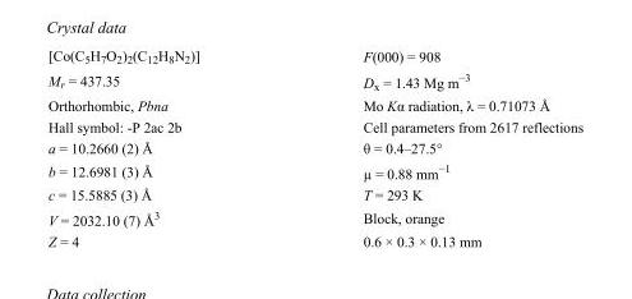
<table><tbody><tr><td>[Co(C<sub>5</sub>H<sub>7</sub>O<sub>2</sub>)<sub>2</sub>(C<sub>12</sub>H<sub>8</sub>N<sub>2</sub>)]</td><td>F(000) = 908</td></tr><tr><td>M<sub>r</sub> = 437.35</td><td>D<sub>x</sub> = 1.43 Mg m<sup>−3</sup></td></tr><tr><td>Orthorhombic, Pbna</td><td>Mo Kα radiation, λ = 0.71073 Å</td></tr><tr><td>Hall symbol: -P 2ac 2b</td><td>Cell parameters from 2617 reflections</td></tr><tr><td>a = 10.2660 (2) Å</td><td>θ = 0.4–27.5°</td></tr><tr><td>b = 12.6981 (3) Å</td><td>µ = 0.88 mm<sup>−1</sup></td></tr><tr><td>c = 15.5885 (3) Å</td><td>T = 293 K</td></tr><tr><td>V = 2032.10 (7) Å<sup>3</sup></td><td>Block, orange</td></tr><tr><td>Z = 4</td><td>0.6 × 0.3 × 0.13 mm</td></tr></tbody></table>